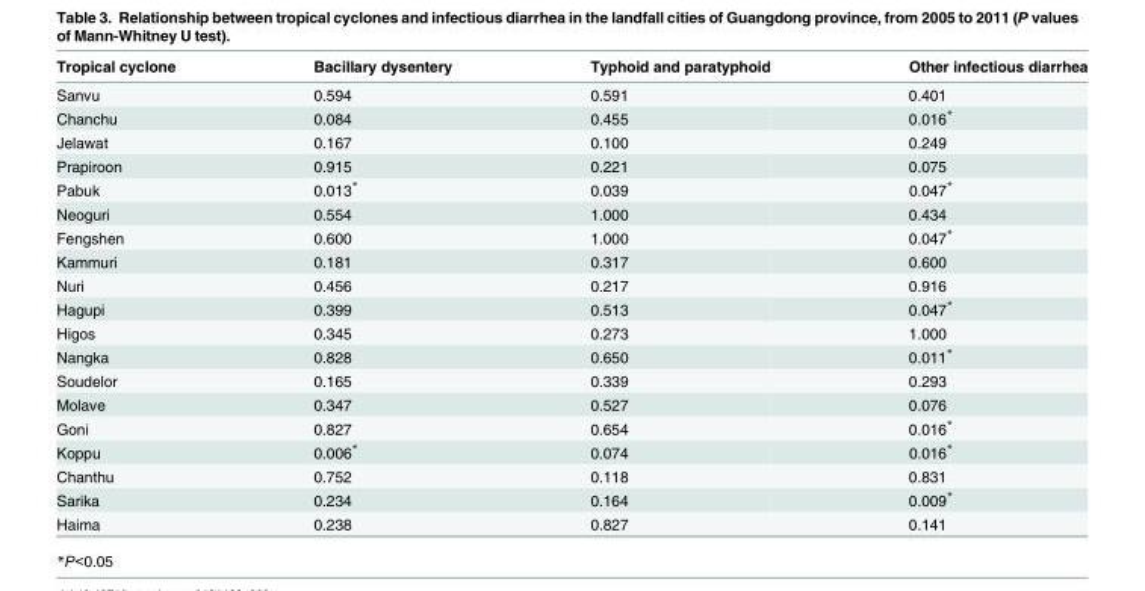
<table><thead><tr><td>Tropical cyclone</td><td>Bacillary dysentery</td><td>Typhoid and paratyphoid</td><td>Other infectious diarrhea</td></tr></thead><tbody><tr><td>Sanvu</td><td>0.594</td><td>0.591</td><td>0.401</td></tr><tr><td>Chanchu</td><td>0.084</td><td>0.455</td><td>0.016*</td></tr><tr><td>Jelawat</td><td>0.167</td><td>0.100</td><td>0.249</td></tr><tr><td>Prapiroon</td><td>0.915</td><td>0.221</td><td>0.075</td></tr><tr><td>Pabuk</td><td>0.013*</td><td>0.039</td><td>0.047*</td></tr><tr><td>Neoguri</td><td>0.554</td><td>1.000</td><td>0.434</td></tr><tr><td>Fengshen</td><td>0.600</td><td>1.000</td><td>0.047*</td></tr><tr><td>Kammuri</td><td>0.181</td><td>0.317</td><td>0.600</td></tr><tr><td>Nuri</td><td>0.456</td><td>0.217</td><td>0.916</td></tr><tr><td>Hagupi</td><td>0.399</td><td>0.513</td><td>0.047*</td></tr><tr><td>Higos</td><td>0.345</td><td>0.273</td><td>1.000</td></tr><tr><td>Nangka</td><td>0.828</td><td>0.650</td><td>0.011*</td></tr><tr><td>Soudelor</td><td>0.165</td><td>0.339</td><td>0.293</td></tr><tr><td>Molave</td><td>0.347</td><td>0.527</td><td>0.076</td></tr><tr><td>Goni</td><td>0.827</td><td>0.654</td><td>0.016*</td></tr><tr><td>Koppu</td><td>0.006*</td><td>0.074</td><td>0.016*</td></tr><tr><td>Chanthu</td><td>0.752</td><td>0.118</td><td>0.831</td></tr><tr><td>Sarika</td><td>0.234</td><td>0.164</td><td>0.009*</td></tr><tr><td>Haima</td><td>0.238</td><td>0.827</td><td>0.141</td></tr></tbody></table>